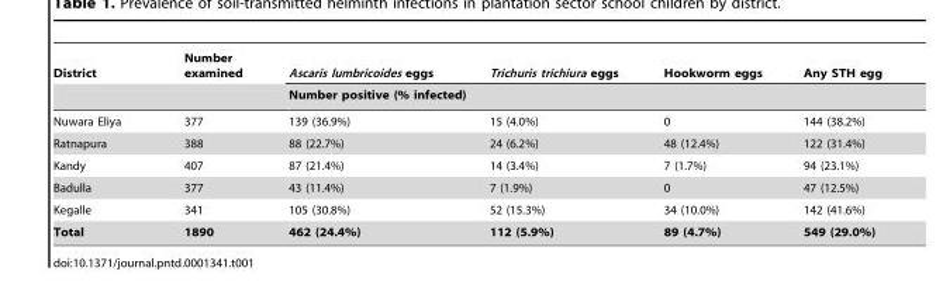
<table><thead><tr><td rowspan="2">District</td><td rowspan="2">Number examined</td><td>Ascaris lumbricoides eggs</td><td>Trichuris trichiura eggs</td><td>Hookworm eggs</td><td>Any STH egg</td></tr><tr><td colspan="4">Number positive (% infected)</td></tr></thead><tbody><tr><td>Nuwara Eliya</td><td>377</td><td>139 (36.9%)</td><td>15 (4.0%)</td><td>0</td><td>144 (38.2%)</td></tr><tr><td>Ratnapura</td><td>388</td><td>88 (22.7%)</td><td>24 (6.2%)</td><td>48 (12.4%)</td><td>122 (31.4%)</td></tr><tr><td>Kandy</td><td>407</td><td>87 (21.4%)</td><td>14 (3.4%)</td><td>7 (1.7%)</td><td>94 (23.1%)</td></tr><tr><td>Badulla</td><td>377</td><td>43 (11.4%)</td><td>7 (1.9%)</td><td>0</td><td>47 (12.5%)</td></tr><tr><td>Kegalle</td><td>341</td><td>105 (30.8%)</td><td>52 (15.3%)</td><td>34 (10.0%)</td><td>142 (41.6%)</td></tr><tr><td>Total</td><td>1890</td><td>462 (24.4%)</td><td>112 (5.9%)</td><td>89 (4.7%)</td><td>549 (29.0%)</td></tr></tbody></table>